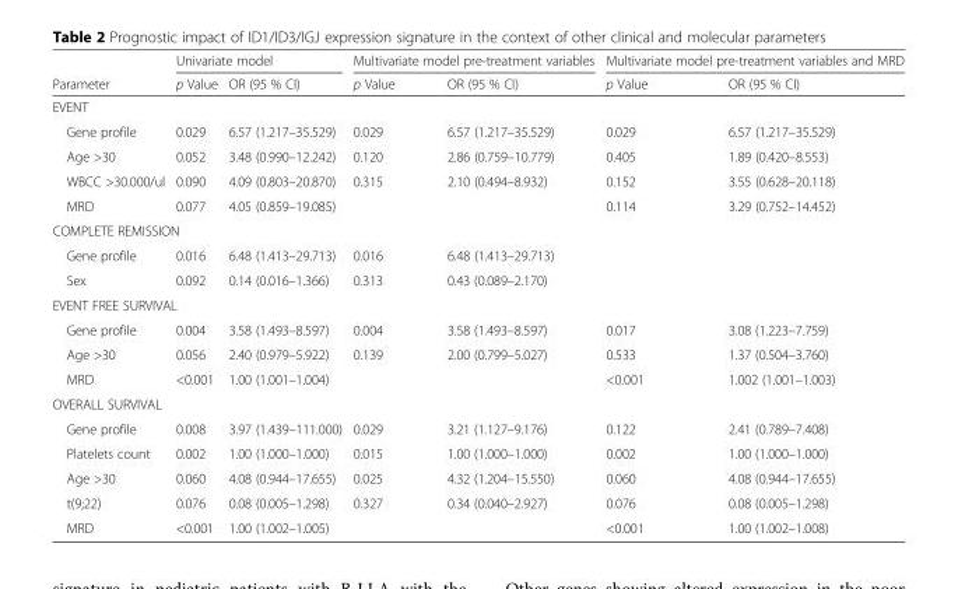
<table><thead><tr><td rowspan="2">Parameter</td><td colspan="2">Univariate model</td><td colspan="2">Multivariate model pre-treatment variables</td><td colspan="2">Multivariate model pre-treatment variables and MRD</td></tr><tr><td>p Value</td><td>OR (95 % CI)</td><td>p Value</td><td>OR (95 % CI)</td><td>p Value</td><td>OR (95 % CI)</td></tr></thead><tbody><tr><td colspan="7">EVENT</td></tr><tr><td>Gene profile</td><td>0.029</td><td>6.57 (1.217–35.529)</td><td>0.029</td><td>6.57 (1.217–35.529)</td><td>0.029</td><td>6.57 (1.217–35.529)</td></tr><tr><td>Age &gt;30</td><td>0.052</td><td>3.48 (0.990–12.242)</td><td>0.120</td><td>2.86 (0.759–10.779)</td><td>0.405</td><td>1.89 (0.420–8.553)</td></tr><tr><td>WBCC &gt;30.000/ul</td><td>0.090</td><td>4.09 (0.803–20.870)</td><td>0.315</td><td>2.10 (0.494–8.932)</td><td>0.152</td><td>3.55 (0.628–20.118)</td></tr><tr><td>MRD</td><td>0.077</td><td>4.05 (0.859–19.085)</td><td></td><td></td><td>0.114</td><td>3.29 (0.752–14.452)</td></tr><tr><td colspan="7">COMPLETE REMISSION</td></tr><tr><td>Gene profile</td><td>0.016</td><td>6.48 (1.413–29.713)</td><td>0.016</td><td>6.48 (1.413–29.713)</td><td></td><td></td></tr><tr><td>Sex</td><td>0.092</td><td>0.14 (0.016–1.366)</td><td>0.313</td><td>0.43 (0.089–2.170)</td><td></td><td></td></tr><tr><td colspan="7">EVENT FREE SURVIVAL</td></tr><tr><td>Gene profile</td><td>0.004</td><td>3.58 (1.493–8.597)</td><td>0.004</td><td>3.58 (1.493–8.597)</td><td>0.017</td><td>3.08 (1.223–7.759)</td></tr><tr><td>Age &gt;30</td><td>0.056</td><td>2.40 (0.979–5.922)</td><td>0.139</td><td>2.00 (0.799–5.027)</td><td>0.533</td><td>1.37 (0.504–3.760)</td></tr><tr><td>MRD</td><td>&lt;0.001</td><td>1.00 (1.001–1.004)</td><td></td><td></td><td>&lt;0.001</td><td>1.002 (1.001–1.003)</td></tr><tr><td colspan="7">OVERALL SURVIVAL</td></tr><tr><td>Gene profile</td><td>0.008</td><td>3.97 (1.439–111.000)</td><td>0.029</td><td>3.21 (1.127–9.176)</td><td>0.122</td><td>2.41 (0.789–7.408)</td></tr><tr><td>Platelets count</td><td>0.002</td><td>1.00 (1.000–1.000)</td><td>0.015</td><td>1.00 (1.000–1.000)</td><td>0.002</td><td>1.00 (1.000–1.000)</td></tr><tr><td>Age &gt;30</td><td>0.060</td><td>4.08 (0.944–17.655)</td><td>0.025</td><td>4.32 (1.204–15.550)</td><td>0.060</td><td>4.08 (0.944–17.655)</td></tr><tr><td>t(9;22)</td><td>0.076</td><td>0.08 (0.005–1.298)</td><td>0.327</td><td>0.34 (0.040–2.927)</td><td>0.076</td><td>0.08 (0.005–1.298)</td></tr><tr><td>MRD</td><td>&lt;0.001</td><td>1.00 (1.002–1.005)</td><td></td><td></td><td>&lt;0.001</td><td>1.00 (1.002–1.008)</td></tr></tbody></table>